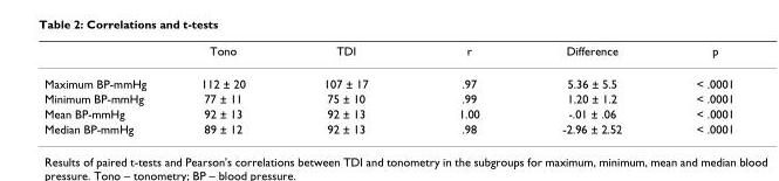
<table><thead><tr><td></td><td>Tono</td><td>TDI</td><td>r</td><td>Difference</td><td>p</td></tr></thead><tbody><tr><td>Maximum BP-mmHg</td><td>112 ± 20</td><td>107 ± 17</td><td>.97</td><td>5.36 ± 5.5</td><td>&lt; .0001</td></tr><tr><td>Minimum BP-mmHg</td><td>77 ± 11</td><td>75 ± 10</td><td>.99</td><td>1.20 ± 1.2</td><td>&lt; .0001</td></tr><tr><td>Mean BP-mmHg</td><td>92 ± 13</td><td>92 ± 13</td><td>1.00</td><td>-.01 ± .06</td><td>&lt; .0001</td></tr><tr><td>Median BP-mmHg</td><td>89 ± 12</td><td>92 ± 13</td><td>.98</td><td>-2.96 ± 2.52</td><td>&lt; .0001</td></tr></tbody></table>